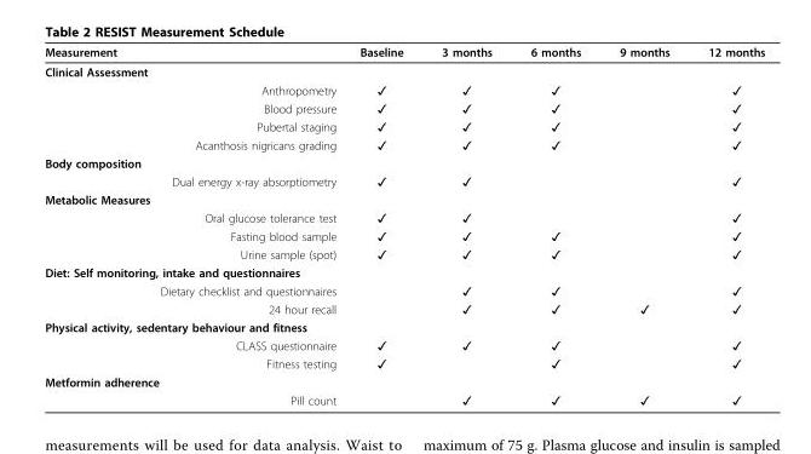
<table><thead><tr><td>Measurement</td><td>Baseline</td><td>3 months</td><td>6 months</td><td>9 months</td><td>12 months</td></tr></thead><tbody><tr><td colspan="6">Clinical Assessment</td></tr><tr><td>Anthropometry</td><td>✓</td><td>✓</td><td>✓</td><td></td><td>✓</td></tr><tr><td>Blood pressure</td><td>✓</td><td>✓</td><td>✓</td><td></td><td>✓</td></tr><tr><td>Pubertal staging</td><td>✓</td><td>✓</td><td>✓</td><td></td><td>✓</td></tr><tr><td>Acanthosis nigricans grading</td><td>✓</td><td>✓</td><td>✓</td><td></td><td>✓</td></tr><tr><td colspan="6">Body composition</td></tr><tr><td>Dual energy x-ray absorptiometry</td><td>✓</td><td>✓</td><td></td><td></td><td>✓</td></tr><tr><td colspan="6">Metabolic Measures</td></tr><tr><td>Oral glucose tolerance test</td><td>✓</td><td>✓</td><td></td><td></td><td>✓</td></tr><tr><td>Fasting blood sample</td><td>✓</td><td>✓</td><td>✓</td><td></td><td>✓</td></tr><tr><td>Urine sample (spot)</td><td>✓</td><td>✓</td><td>✓</td><td></td><td>✓</td></tr><tr><td colspan="6">Diet: Self monitoring, intake and questionnaires</td></tr><tr><td>Dietary checklist and questionnaires</td><td></td><td>✓</td><td>✓</td><td></td><td>✓</td></tr><tr><td>24 hour recall</td><td></td><td>✓</td><td>✓</td><td>✓</td><td>✓</td></tr><tr><td colspan="6">Physical activity, sedentary behaviour and fitness</td></tr><tr><td>CLASS questionnaire</td><td>✓</td><td>✓</td><td>✓</td><td></td><td>✓</td></tr><tr><td>Fitness testing</td><td>✓</td><td></td><td>✓</td><td></td><td>✓</td></tr><tr><td colspan="6">Metformin adherence</td></tr><tr><td>Pill count</td><td></td><td>✓</td><td>✓</td><td>✓</td><td>✓</td></tr></tbody></table>